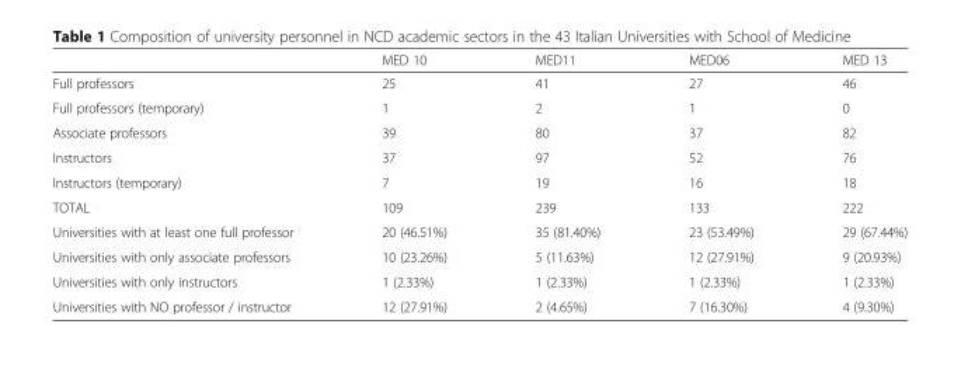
<table><thead><tr><td></td><td>MED 10</td><td>MED11</td><td>MED06</td><td>MED 13</td></tr></thead><tbody><tr><td>Full professors</td><td>25</td><td>41</td><td>27</td><td>46</td></tr><tr><td>Full professors (temporary)</td><td>1</td><td>2</td><td>1</td><td>0</td></tr><tr><td>Associate professors</td><td>39</td><td>80</td><td>37</td><td>82</td></tr><tr><td>Instructors</td><td>37</td><td>97</td><td>52</td><td>76</td></tr><tr><td>Instructors (temporary)</td><td>7</td><td>19</td><td>16</td><td>18</td></tr><tr><td>TOTAL</td><td>109</td><td>239</td><td>133</td><td>222</td></tr><tr><td>Universities with at least one full professor</td><td>20 (46.51%)</td><td>35 (81.40%)</td><td>23 (53.49%)</td><td>29 (67.44%)</td></tr><tr><td>Universities with only associate professors</td><td>10 (23.26%)</td><td>5 (11.63%)</td><td>12 (27.91%)</td><td>9 (20.93%)</td></tr><tr><td>Universities with only instructors</td><td>1 (2.33%)</td><td>1 (2.33%)</td><td>1 (2.33%)</td><td>1 (2.33%)</td></tr><tr><td>Universities with NO professor / instructor</td><td>12 (27.91%)</td><td>2 (4.65%)</td><td>7 (16.30%)</td><td>4 (9.30%)</td></tr></tbody></table>